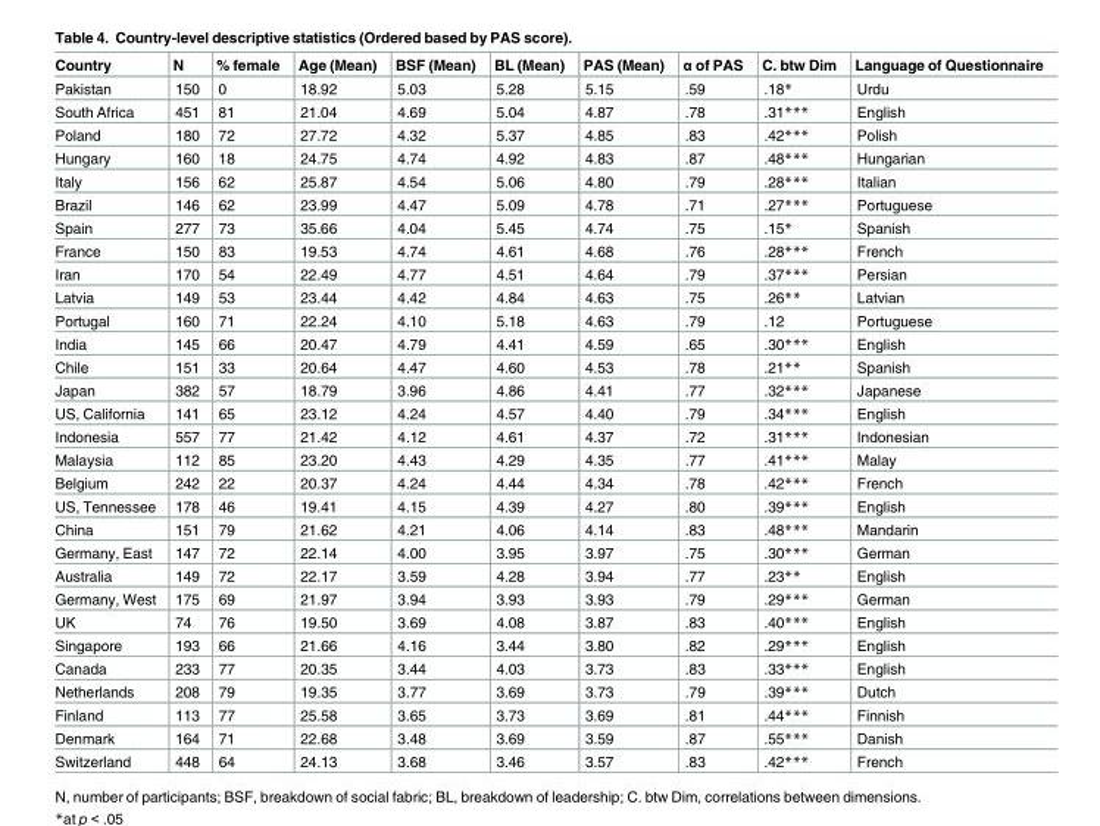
<table><thead><tr><td>Country</td><td>N</td><td>% female</td><td>Age (Mean)</td><td>BSF (Mean)</td><td>BL (Mean)</td><td>PAS (Mean)</td><td>α of PAS</td><td>C. btw Dim</td><td>Language of Questionnaire</td></tr></thead><tbody><tr><td>Pakistan</td><td>150</td><td>0</td><td>18.92</td><td>5.03</td><td>5.28</td><td>5.15</td><td>.59</td><td>.18*</td><td>Urdu</td></tr><tr><td>South Africa</td><td>451</td><td>81</td><td>21.04</td><td>4.69</td><td>5.04</td><td>4.87</td><td>.78</td><td>.31***</td><td>English</td></tr><tr><td>Poland</td><td>180</td><td>72</td><td>27.72</td><td>4.32</td><td>5.37</td><td>4.85</td><td>.83</td><td>.42***</td><td>Polish</td></tr><tr><td>Hungary</td><td>160</td><td>18</td><td>24.75</td><td>4.74</td><td>4.92</td><td>4.83</td><td>.87</td><td>.48***</td><td>Hungarian</td></tr><tr><td>Italy</td><td>156</td><td>62</td><td>25.87</td><td>4.54</td><td>5.06</td><td>4.80</td><td>.79</td><td>.28***</td><td>Italian</td></tr><tr><td>Brazil</td><td>146</td><td>62</td><td>23.99</td><td>4.47</td><td>5.09</td><td>4.78</td><td>.71</td><td>.27***</td><td>Portuguese</td></tr><tr><td>Spain</td><td>277</td><td>73</td><td>35.66</td><td>4.04</td><td>5.45</td><td>4.74</td><td>.75</td><td>.15*</td><td>Spanish</td></tr><tr><td>France</td><td>150</td><td>83</td><td>19.53</td><td>4.74</td><td>4.61</td><td>4.68</td><td>.76</td><td>.28***</td><td>French</td></tr><tr><td>Iran</td><td>170</td><td>54</td><td>22.49</td><td>4.77</td><td>4.51</td><td>4.64</td><td>.79</td><td>.37***</td><td>Persian</td></tr><tr><td>Latvia</td><td>149</td><td>53</td><td>23.44</td><td>4.42</td><td>4.84</td><td>4.63</td><td>.75</td><td>.26**</td><td>Latvian</td></tr><tr><td>Portugal</td><td>160</td><td>71</td><td>22.24</td><td>4.10</td><td>5.18</td><td>4.63</td><td>.79</td><td>.12</td><td>Portuguese</td></tr><tr><td>India</td><td>145</td><td>66</td><td>20.47</td><td>4.79</td><td>4.41</td><td>4.59</td><td>.65</td><td>.30***</td><td>English</td></tr><tr><td>Chile</td><td>151</td><td>33</td><td>20.64</td><td>4.47</td><td>4.60</td><td>4.53</td><td>.78</td><td>.21**</td><td>Spanish</td></tr><tr><td>Japan</td><td>382</td><td>57</td><td>18.79</td><td>3.96</td><td>4.86</td><td>4.41</td><td>.77</td><td>.32***</td><td>Japanese</td></tr><tr><td>US, California</td><td>141</td><td>65</td><td>23.12</td><td>4.24</td><td>4.57</td><td>4.40</td><td>.79</td><td>.34***</td><td>English</td></tr><tr><td>Indonesia</td><td>557</td><td>77</td><td>21.42</td><td>4.12</td><td>4.61</td><td>4.37</td><td>.72</td><td>.31***</td><td>Indonesian</td></tr><tr><td>Malaysia</td><td>112</td><td>85</td><td>23.20</td><td>4.43</td><td>4.29</td><td>4.35</td><td>.77</td><td>.41***</td><td>Malay</td></tr><tr><td>Belgium</td><td>242</td><td>22</td><td>20.37</td><td>4.24</td><td>4.44</td><td>4.34</td><td>.78</td><td>.42***</td><td>French</td></tr><tr><td>US, Tennessee</td><td>178</td><td>46</td><td>19.41</td><td>4.15</td><td>4.39</td><td>4.27</td><td>.80</td><td>.39***</td><td>English</td></tr><tr><td>China</td><td>151</td><td>79</td><td>21.62</td><td>4.21</td><td>4.06</td><td>4.14</td><td>.83</td><td>.48***</td><td>Mandarin</td></tr><tr><td>Germany, East</td><td>147</td><td>72</td><td>22.14</td><td>4.00</td><td>3.95</td><td>3.97</td><td>.75</td><td>.30***</td><td>German</td></tr><tr><td>Australia</td><td>149</td><td>72</td><td>22.17</td><td>3.59</td><td>4.28</td><td>3.94</td><td>.77</td><td>.23**</td><td>English</td></tr><tr><td>Germany, West</td><td>175</td><td>69</td><td>21.97</td><td>3.94</td><td>3.93</td><td>3.93</td><td>.79</td><td>.29***</td><td>German</td></tr><tr><td>UK</td><td>74</td><td>76</td><td>19.50</td><td>3.69</td><td>4.08</td><td>3.87</td><td>.83</td><td>.40***</td><td>English</td></tr><tr><td>Singapore</td><td>193</td><td>66</td><td>21.66</td><td>4.16</td><td>3.44</td><td>3.80</td><td>.82</td><td>.29***</td><td>English</td></tr><tr><td>Canada</td><td>233</td><td>77</td><td>20.35</td><td>3.44</td><td>4.03</td><td>3.73</td><td>.83</td><td>.33***</td><td>English</td></tr><tr><td>Netherlands</td><td>208</td><td>79</td><td>19.35</td><td>3.77</td><td>3.69</td><td>3.73</td><td>.79</td><td>.39***</td><td>Dutch</td></tr><tr><td>Finland</td><td>113</td><td>77</td><td>25.58</td><td>3.65</td><td>3.73</td><td>3.69</td><td>.81</td><td>.44***</td><td>Finnish</td></tr><tr><td>Denmark</td><td>164</td><td>71</td><td>22.68</td><td>3.48</td><td>3.69</td><td>3.59</td><td>.87</td><td>.55***</td><td>Danish</td></tr><tr><td>Switzerland</td><td>448</td><td>64</td><td>24.13</td><td>3.68</td><td>3.46</td><td>3.57</td><td>.83</td><td>.42***</td><td>French</td></tr></tbody></table>